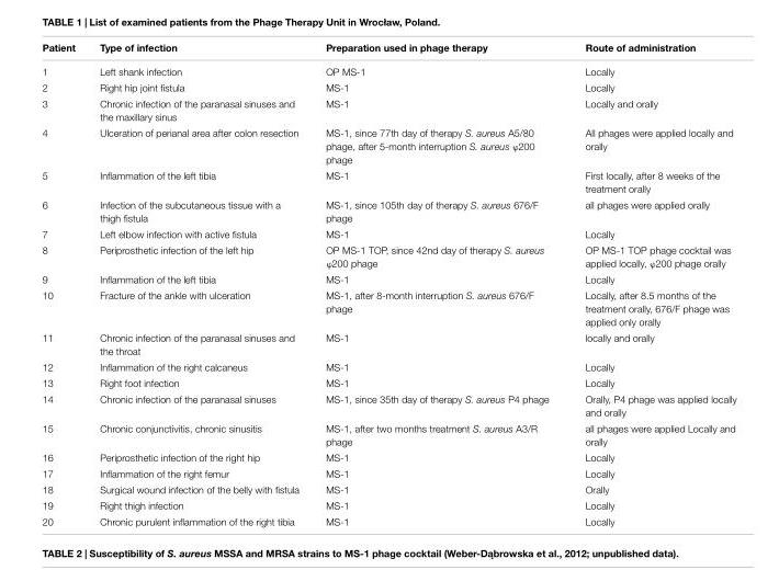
<table><thead><tr><td>Patient</td><td>Type of infection</td><td>Preparation used in phage therapy</td><td>Route of administration</td></tr></thead><tbody><tr><td>1</td><td>Left shank infection</td><td>OP MS-1</td><td>Locally</td></tr><tr><td>2</td><td>Right hip joint fistula</td><td>MS-1</td><td>Locally</td></tr><tr><td>3</td><td>Chronic infection of the paranasal sinuses and the maxillary sinus</td><td>MS-1</td><td>Locally and orally</td></tr><tr><td>4</td><td>Ulceration of perianal area after colon resection</td><td>MS-1, since 77th day of therapy S. aureus A5/80 phage, after 5-month interruption S. aureus ϕ200 phage</td><td>All phages were applied locally and orally</td></tr><tr><td>5</td><td>Inflammation of the left tibia</td><td>MS-1</td><td>First locally, after 8 weeks of the treatment orally</td></tr><tr><td>6</td><td>Infection of the subcutaneous tissue with a thigh fistula</td><td>MS-1, since 105th day of therapy S. aureus 676/F phage</td><td>all phages were applied orally</td></tr><tr><td>7</td><td>Left elbow infection with active fistula</td><td>MS-1</td><td>Locally</td></tr><tr><td>8</td><td>Periprosthetic infection of the left hip</td><td>OP MS-1 TOP, since 42nd day of therapy S. aureus ϕ200 phage</td><td>OP MS-1 TOP phage cocktail was applied locally, ϕ200 phage orally</td></tr><tr><td>9</td><td>Inflammation of the left tibia</td><td>MS-1</td><td>Locally</td></tr><tr><td>10</td><td>Fracture of the ankle with ulceration</td><td>MS-1, after 8-month interruption S. aureus 676/F phage</td><td>Locally, after 8.5 months of the treatment orally, 676/F phage was applied only orally</td></tr><tr><td>11</td><td>Chronic infection of the paranasal sinuses and the throat</td><td>MS-1</td><td>locally and orally</td></tr><tr><td>12</td><td>Inflammation of the right calcaneus</td><td>MS-1</td><td>Locally</td></tr><tr><td>13</td><td>Right foot infection</td><td>MS-1</td><td>Locally</td></tr><tr><td>14</td><td>Chronic infection of the paranasal sinuses</td><td>MS-1, since 35th day of therapy S. aureus P4 phage</td><td>Orally, P4 phage was applied locally and orally</td></tr><tr><td>15</td><td>Chronic conjunctivitis, chronic sinusitis</td><td>MS-1, after two months treatment S. aureus A3/R phage</td><td>all phages were applied Locally and orally</td></tr><tr><td>16</td><td>Periprosthetic infection of the right hip</td><td>MS-1</td><td>Locally</td></tr><tr><td>17</td><td>Inflammation of the right femur</td><td>MS-1</td><td>Locally</td></tr><tr><td>18</td><td>Surgical wound infection of the belly with fistula</td><td>MS-1</td><td>Orally</td></tr><tr><td>19</td><td>Right thigh infection</td><td>MS-1</td><td>Locally</td></tr><tr><td>20</td><td>Chronic purulent inflammation of the right tibia</td><td>MS-1</td><td>Locally</td></tr></tbody></table>